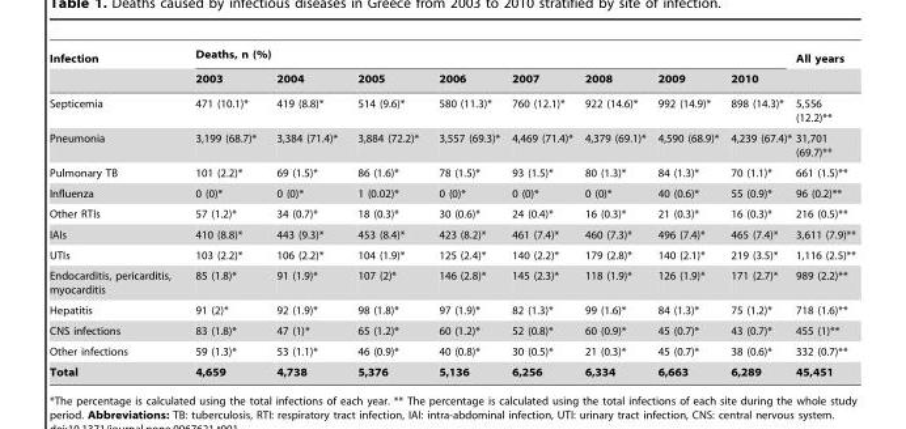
<table><thead><tr><td rowspan="2">Infection</td><td colspan="8">Deaths, n (%)</td><td rowspan="2">All years</td></tr><tr><td>2003</td><td>2004</td><td>2005</td><td>2006</td><td>2007</td><td>2008</td><td>2009</td><td>2010</td></tr></thead><tbody><tr><td>Septicemia</td><td>471 (10.1)*</td><td>419 (8.8)*</td><td>514 (9.6)*</td><td>580 (11.3)*</td><td>760 (12.1)*</td><td>922 (14.6)*</td><td>992 (14.9)*</td><td>898 (14.3)*</td><td>5,556 (12.2)**</td></tr><tr><td>Pneumonia</td><td>3,199 (68.7)*</td><td>3,384 (71.4)*</td><td>3,884 (72.2)*</td><td>3,557 (69.3)*</td><td>4,469 (71.4)*</td><td>4,379 (69.1)*</td><td>4,590 (68.9)*</td><td>4,239 (67.4)*</td><td>31,701 (69.7)**</td></tr><tr><td>Pulmonary TB</td><td>101 (2.2)*</td><td>69 (1.5)*</td><td>86 (1.6)*</td><td>78 (1.5)*</td><td>93 (1.5)*</td><td>80 (1.3)*</td><td>84 (1.3)*</td><td>70 (1.1)*</td><td>661 (1.5)**</td></tr><tr><td>Influenza</td><td>0 (0)*</td><td>0 (0)*</td><td>1 (0.02)*</td><td>0 (0)*</td><td>0 (0)*</td><td>0 (0)*</td><td>40 (0.6)*</td><td>55 (0.9)*</td><td>96 (0.2)**</td></tr><tr><td>Other RTIs</td><td>57 (1.2)*</td><td>34 (0.7)*</td><td>18 (0.3)*</td><td>30 (0.6)*</td><td>24 (0.4)*</td><td>16 (0.3)*</td><td>21 (0.3)*</td><td>16 (0.3)*</td><td>216 (0.5)**</td></tr><tr><td>IAIs</td><td>410 (8.8)*</td><td>443 (9.3)*</td><td>453 (8.4)*</td><td>423 (8.2)*</td><td>461 (7.4)*</td><td>460 (7.3)*</td><td>496 (7.4)*</td><td>465 (7.4)*</td><td>3,611 (7.9)**</td></tr><tr><td>UTIs</td><td>103 (2.2)*</td><td>106 (2.2)*</td><td>104 (1.9)*</td><td>125 (2.4)*</td><td>140 (2.2)*</td><td>179 (2.8)*</td><td>140 (2.1)*</td><td>219 (3.5)*</td><td>1,116 (2.5)**</td></tr><tr><td>Endocarditis, pericarditis, myocarditis</td><td>85 (1.8)*</td><td>91 (1.9)*</td><td>107 (2)*</td><td>146 (2.8)*</td><td>145 (2.3)*</td><td>118 (1.9)*</td><td>126 (1.9)*</td><td>171 (2.7)*</td><td>989 (2.2)**</td></tr><tr><td>Hepatitis</td><td>91 (2)*</td><td>92 (1.9)*</td><td>98 (1.8)*</td><td>97 (1.9)*</td><td>82 (1.3)*</td><td>99 (1.6)*</td><td>84 (1.3)*</td><td>75 (1.2)*</td><td>718 (1.6)**</td></tr><tr><td>CNS infections</td><td>83 (1.8)*</td><td>47 (1)*</td><td>65 (1.2)*</td><td>60 (1.2)*</td><td>52 (0.8)*</td><td>60 (0.9)*</td><td>45 (0.7)*</td><td>43 (0.7)*</td><td>455 (1)**</td></tr><tr><td>Other infections</td><td>59 (1.3)*</td><td>53 (1.1)*</td><td>46 (0.9)*</td><td>40 (0.8)*</td><td>30 (0.5)*</td><td>21 (0.3)*</td><td>45 (0.7)*</td><td>38 (0.6)*</td><td>332 (0.7)**</td></tr><tr><td>Total</td><td>4,659</td><td>4,738</td><td>5,376</td><td>5,136</td><td>6,256</td><td>6,334</td><td>6,663</td><td>6,289</td><td>45,451</td></tr></tbody></table>